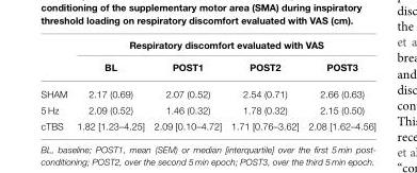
<table><thead><tr><td rowspan="2"></td><td colspan="4">Respiratory discomfort evaluated with VAS</td></tr><tr><td>BL</td><td>POST1</td><td>POST2</td><td>POST3</td></tr></thead><tbody><tr><td>SHAM</td><td>2.17 (0.69)</td><td>2.07 (0.52)</td><td>2.54 (0.71)</td><td>2.66 (0.63)</td></tr><tr><td>5 Hz</td><td>2.09 (0.52)</td><td>1.46 (0.32)</td><td>1.78 (0.32)</td><td>2.15 (0.50)</td></tr><tr><td>cTBS</td><td>1.82 [1.23–4.25]</td><td>2.09 [0.10–4.72]</td><td>1.71 [0.76–3.62]</td><td>2.08 [1.62–4.56]</td></tr></tbody></table>